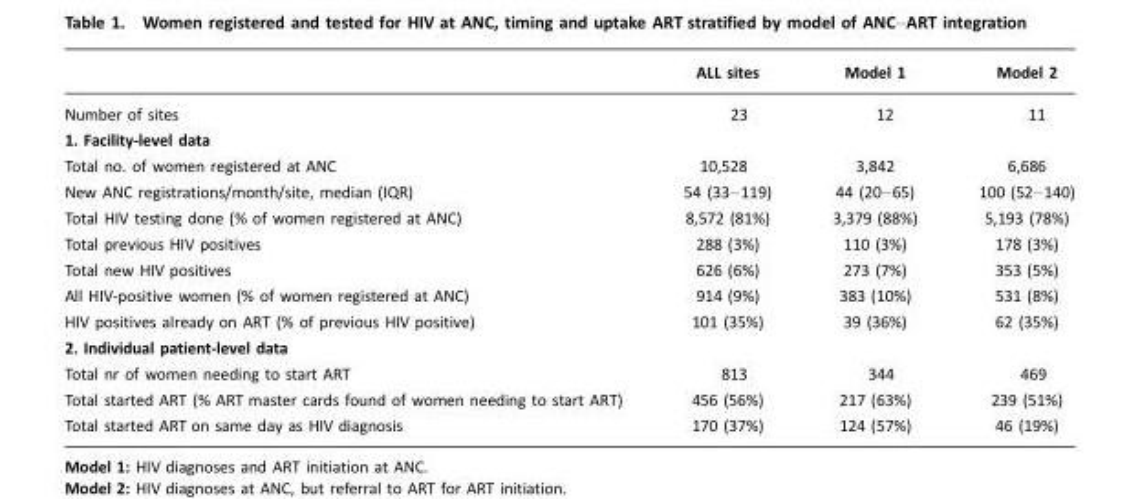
<table><thead><tr><td></td><td>ALL sites</td><td>Model 1</td><td>Model 2</td></tr></thead><tbody><tr><td>Number of sites</td><td>23</td><td>12</td><td>11</td></tr><tr><td colspan="4">1. Facility-level data</td></tr><tr><td>Total no. of women registered at ANC</td><td>10,528</td><td>3,842</td><td>6,686</td></tr><tr><td>New ANC registrations/month/site, median (IQR)</td><td>54 (33–119)</td><td>44 (20–65)</td><td>100 (52–140)</td></tr><tr><td>Total HIV testing done (% of women registered at ANC)</td><td>8,572 (81%)</td><td>3,379 (88%)</td><td>5,193 (78%)</td></tr><tr><td>Total previous HIV positives</td><td>288 (3%)</td><td>110 (3%)</td><td>178 (3%)</td></tr><tr><td>Total new HIV positives</td><td>626 (6%)</td><td>273 (7%)</td><td>353 (5%)</td></tr><tr><td>All HIV-positive women (% of women registered at ANC)</td><td>914 (9%)</td><td>383 (10%)</td><td>531 (8%)</td></tr><tr><td>HIV positives already on ART (% of previous HIV positive)</td><td>101 (35%)</td><td>39 (36%)</td><td>62 (35%)</td></tr><tr><td colspan="4">2. Individual patient-level data</td></tr><tr><td>Total nr of women needing to start ART</td><td>813</td><td>344</td><td>469</td></tr><tr><td>Total started ART (% ART master cards found of women needing to start ART)</td><td>456 (56%)</td><td>217 (63%)</td><td>239 (51%)</td></tr><tr><td>Total started ART on same day as HIV diagnosis</td><td>170 (37%)</td><td>124 (57%)</td><td>46 (19%)</td></tr></tbody></table>